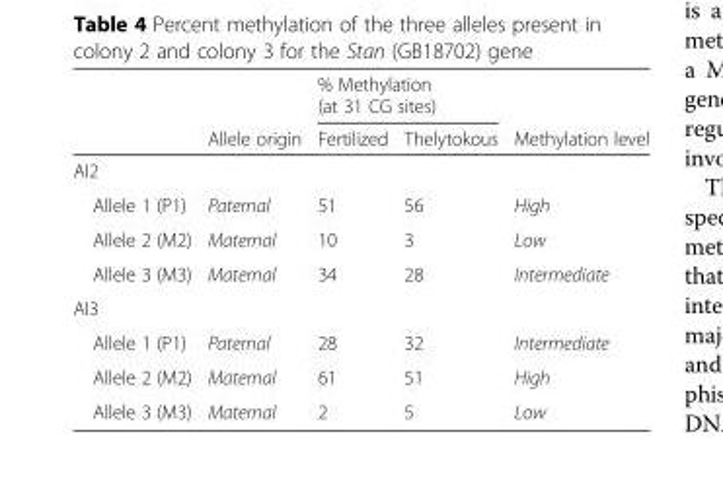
<table><thead><tr><td rowspan="2"></td><td rowspan="2">Allele origin</td><td colspan="2">% Methylation (at 31 CG sites)</td><td rowspan="2">Methylation level</td></tr><tr><td>Fertilized</td><td>Thelytokous</td></tr></thead><tbody><tr><td colspan="5">AI2</td></tr><tr><td>Allele 1 (P1)</td><td>Paternal</td><td>51</td><td>56</td><td>High</td></tr><tr><td>Allele 2 (M2)</td><td>Maternal</td><td>10</td><td>3</td><td>Low</td></tr><tr><td>Allele 3 (M3)</td><td>Maternal</td><td>34</td><td>28</td><td>Intermediate</td></tr><tr><td colspan="5">AI3</td></tr><tr><td>Allele 1 (P1)</td><td>Paternal</td><td>28</td><td>32</td><td>Intermediate</td></tr><tr><td>Allele 2 (M2)</td><td>Maternal</td><td>61</td><td>51</td><td>High</td></tr><tr><td>Allele 3 (M3)</td><td>Maternal</td><td>2</td><td>5</td><td>Low</td></tr></tbody></table>